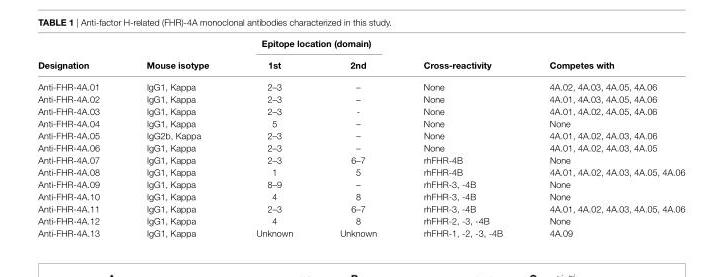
<table><thead><tr><td rowspan="2">Designation</td><td rowspan="2">Mouse isotype</td><td colspan="2">epitope location (domain)</td><td rowspan="2">cross-reactivity</td><td rowspan="2">competes with</td></tr><tr><td>1st</td><td>2nd</td></tr></thead><tbody><tr><td>Anti-FHR-4A.01</td><td>IgG1, Kappa</td><td>2–3</td><td>–</td><td>None</td><td>4A.02, 4A.03, 4A.05, 4A.06</td></tr><tr><td>Anti-FHR-4A.02</td><td>IgG1, Kappa</td><td>2–3</td><td>–</td><td>None</td><td>4A.01, 4A.03, 4A.05, 4A.06</td></tr><tr><td>Anti-FHR-4A.03</td><td>IgG1, Kappa</td><td>2–3</td><td>-</td><td>None</td><td>4A.01, 4A.02, 4A.05, 4A.06</td></tr><tr><td>Anti-FHR-4A.04</td><td>IgG1, Kappa</td><td>5</td><td>–</td><td>None</td><td>None</td></tr><tr><td>Anti-FHR-4A.05</td><td>IgG2b, Kappa</td><td>2–3</td><td>–</td><td>None</td><td>4A.01, 4A.02, 4A.03, 4A.06</td></tr><tr><td>Anti-FHR-4A.06</td><td>IgG1, Kappa</td><td>2–3</td><td>–</td><td>None</td><td>4A.01, 4A.02, 4A.03, 4A.05</td></tr><tr><td>Anti-FHR-4A.07</td><td>IgG1, Kappa</td><td>2–3</td><td>6–7</td><td>rhFHR-4B</td><td>None</td></tr><tr><td>Anti-FHR-4A.08</td><td>IgG1, Kappa</td><td>1</td><td>5</td><td>rhFHR-4B</td><td>4A.01, 4A.02, 4A.03, 4A.05, 4A.06</td></tr><tr><td>Anti-FHR-4A.09</td><td>IgG1, Kappa</td><td>8–9</td><td>–</td><td>rhFHR-3, -4B</td><td>None</td></tr><tr><td>Anti-FHR-4A.10</td><td>IgG1, Kappa</td><td>4</td><td>8</td><td>rhFHR-3, -4B</td><td>None</td></tr><tr><td>Anti-FHR-4A.11</td><td>IgG1, Kappa</td><td>2–3</td><td>6–7</td><td>rhFHR-3, -4B</td><td>4A.01, 4A.02, 4A.03, 4A.05, 4A.06</td></tr><tr><td>Anti-FHR-4A.12</td><td>IgG1, Kappa</td><td>4</td><td>8</td><td>rhFHR-2, -3, -4B</td><td>None</td></tr><tr><td>Anti-FHR-4A.13</td><td>IgG1, Kappa</td><td>Unknown</td><td>Unknown</td><td>rhFHR-1, -2, -3, -4B</td><td>4A.09</td></tr></tbody></table>